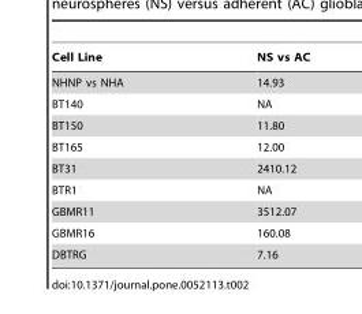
<table><thead><tr><td>Cell Line</td><td>NS vs AC</td></tr></thead><tbody><tr><td>NHNP vs NHA</td><td>14.93</td></tr><tr><td>BT140</td><td>NA</td></tr><tr><td>BT150</td><td>11.80</td></tr><tr><td>BT165</td><td>12.00</td></tr><tr><td>BT31</td><td>2410.12</td></tr><tr><td>BTR1</td><td>NA</td></tr><tr><td>GBMR11</td><td>3512.07</td></tr><tr><td>GBMR16</td><td>160.08</td></tr><tr><td>DBTRG</td><td>7.16</td></tr></tbody></table>